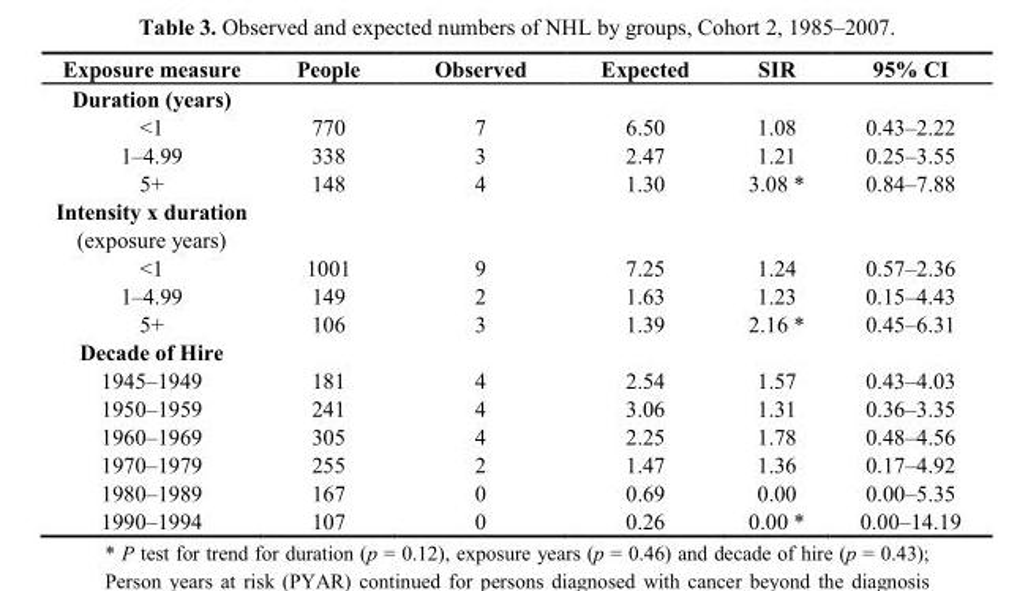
<table><thead><tr><td>Exposure measure</td><td>People</td><td>Observed</td><td>Expected</td><td>SIR</td><td>95% CI</td></tr></thead><tbody><tr><td colspan="6">Duration (years)</td></tr><tr><td>&lt;1</td><td>770</td><td>7</td><td>6.50</td><td>1.08</td><td>0.43–2.22</td></tr><tr><td>1–4.99</td><td>338</td><td>3</td><td>2.47</td><td>1.21</td><td>0.25–3.55</td></tr><tr><td>5+</td><td>148</td><td>4</td><td>1.30</td><td>3.08 *</td><td>0.84–7.88</td></tr><tr><td colspan="6">Intensity x duration (exposure years)</td></tr><tr><td>&lt;1</td><td>1001</td><td>9</td><td>7.25</td><td>1.24</td><td>0.57–2.36</td></tr><tr><td>1–4.99</td><td>149</td><td>2</td><td>1.63</td><td>1.23</td><td>0.15–4.43</td></tr><tr><td>5+</td><td>106</td><td>3</td><td>1.39</td><td>2.16 *</td><td>0.45–6.31</td></tr><tr><td colspan="6">Decade of Hire</td></tr><tr><td>1945–1949</td><td>181</td><td>4</td><td>2.54</td><td>1.57</td><td>0.43–4.03</td></tr><tr><td>1950–1959</td><td>241</td><td>4</td><td>3.06</td><td>1.31</td><td>0.36–3.35</td></tr><tr><td>1960–1969</td><td>305</td><td>4</td><td>2.25</td><td>1.78</td><td>0.48–4.56</td></tr><tr><td>1970–1979</td><td>255</td><td>2</td><td>1.47</td><td>1.36</td><td>0.17–4.92</td></tr><tr><td>1980–1989</td><td>167</td><td>0</td><td>0.69</td><td>0.00</td><td>0.00–5.35</td></tr><tr><td>1990–1994</td><td>107</td><td>0</td><td>0.26</td><td>0.00 *</td><td>0.00–14.19</td></tr></tbody></table>